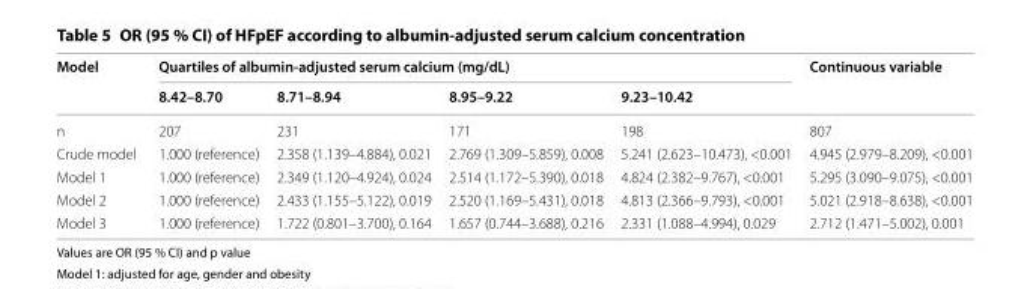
<table><thead><tr><td rowspan="2">Model</td><td colspan="4">Quartiles of albumin‑adjusted serum calcium (mg/dL)</td><td rowspan="2">Continuous variable</td></tr><tr><td>8.42–8.70</td><td>8.71–8.94</td><td>8.95–9.22</td><td>9.23–10.42</td></tr></thead><tbody><tr><td>n</td><td>207</td><td>231</td><td>171</td><td>198</td><td>807</td></tr><tr><td>Crude model</td><td>1.000 (reference)</td><td>2.358 (1.139–4.884), 0.021</td><td>2.769 (1.309–5.859), 0.008</td><td>5.241 (2.623–10.473), &lt;0.001</td><td>4.945 (2.979–8.209), &lt;0.001</td></tr><tr><td>Model 1</td><td>1.000 (reference)</td><td>2.349 (1.120–4.924), 0.024</td><td>2.514 (1.172–5.390), 0.018</td><td>4.824 (2.382–9.767), &lt;0.001</td><td>5.295 (3.090–9.075), &lt;0.001</td></tr><tr><td>Model 2</td><td>1.000 (reference)</td><td>2.433 (1.155–5.122), 0.019</td><td>2.520 (1.169–5.431), 0.018</td><td>4.813 (2.366–9.793), &lt;0.001</td><td>5.021 (2.918–8.638), &lt;0.001</td></tr><tr><td>Model 3</td><td>1.000 (reference)</td><td>1.722 (0.801–3.700), 0.164</td><td>1.657 (0.744–3.688), 0.216</td><td>2.331 (1.088–4.994), 0.029</td><td>2.712 (1.471–5.002), 0.001</td></tr></tbody></table>